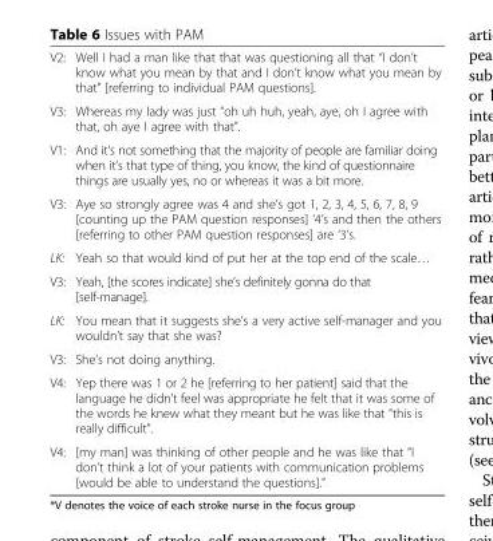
<table><tbody><tr><td>V2:</td><td>Well I had a man like that that was questioning all that “I don’t know what you mean by that and I don’t know what you mean by that” [referring to individual PAM questions].</td></tr><tr><td>V3:</td><td>Whereas my lady was just “oh uh huh, yeah, aye, oh I agree with that, oh aye I agree with that”.</td></tr><tr><td>V1:</td><td>And it’s not something that the majority of people are familiar doing when it’s that type of thing, you know, the kind of questionnaire things are usually yes, no or whereas it was a bit more.</td></tr><tr><td>V3:</td><td>Aye so strongly agree was 4 and she’s got 1, 2, 3, 4, 5, 6, 7, 8, 9 [counting up the PAM question responses] ‘4’s and then the others [referring to other PAM question responses] are ‘3’s.</td></tr><tr><td>LK:</td><td>Yeah so that would kind of put her at the top end of the scale…</td></tr><tr><td>V3:</td><td>Yeah, [the scores indicate] she’s definitely gonna do that [self-manage].</td></tr><tr><td>LK:</td><td>You mean that it suggests she’s a very active self-manager and you wouldn’t say that she was?</td></tr><tr><td>V3:</td><td>She’s not doing anything.</td></tr><tr><td>V4:</td><td>Yep there was 1 or 2 he [referring to her patient] said that the language he didn’t feel was appropriate he felt that it was some of the words he knew what they meant but he was like that “this is really difficult”.</td></tr><tr><td>V4:</td><td>[my man] was thinking of other people and he was like that “I don’t think a lot of your patients with communication problems [would be able to understand the questions].”</td></tr></tbody></table>